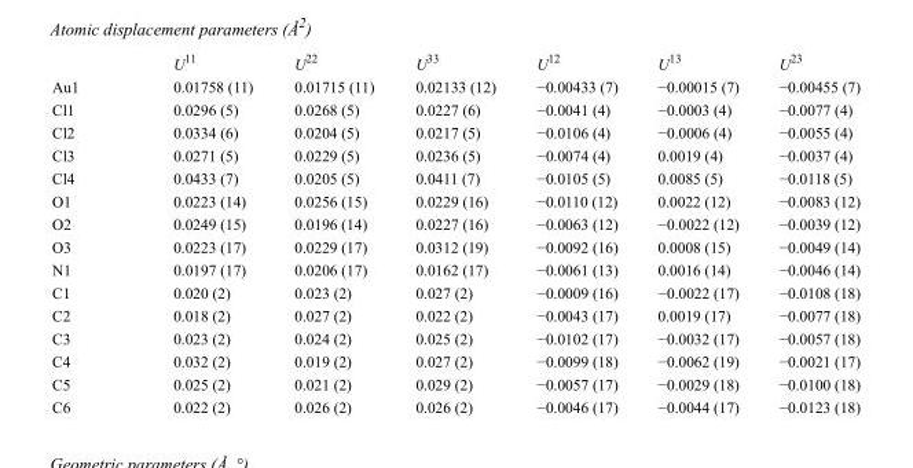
<table><thead><tr><td></td><td>U<sup>11</sup></td><td>U<sup>22</sup></td><td>U<sup>33</sup></td><td>U<sup>12</sup></td><td>U<sup>13</sup></td><td>U<sup>23</sup></td></tr></thead><tbody><tr><td>Au1</td><td>0.01758 (11)</td><td>0.01715 (11)</td><td>0.02133 (12)</td><td>−0.00433 (7)</td><td>−0.00015 (7)</td><td>−0.00455 (7)</td></tr><tr><td>Cl1</td><td>0.0296 (5)</td><td>0.0268 (5)</td><td>0.0227 (6)</td><td>−0.0041 (4)</td><td>−0.0003 (4)</td><td>−0.0077 (4)</td></tr><tr><td>Cl2</td><td>0.0334 (6)</td><td>0.0204 (5)</td><td>0.0217 (5)</td><td>−0.0106 (4)</td><td>−0.0006 (4)</td><td>−0.0055 (4)</td></tr><tr><td>Cl3</td><td>0.0271 (5)</td><td>0.0229 (5)</td><td>0.0236 (5)</td><td>−0.0074 (4)</td><td>0.0019 (4)</td><td>−0.0037 (4)</td></tr><tr><td>Cl4</td><td>0.0433 (7)</td><td>0.0205 (5)</td><td>0.0411 (7)</td><td>−0.0105 (5)</td><td>0.0085 (5)</td><td>−0.0118 (5)</td></tr><tr><td>O1</td><td>0.0223 (14)</td><td>0.0256 (15)</td><td>0.0229 (16)</td><td>−0.0110 (12)</td><td>0.0022 (12)</td><td>−0.0083 (12)</td></tr><tr><td>O2</td><td>0.0249 (15)</td><td>0.0196 (14)</td><td>0.0227 (16)</td><td>−0.0063 (12)</td><td>−0.0022 (12)</td><td>−0.0039 (12)</td></tr><tr><td>O3</td><td>0.0223 (17)</td><td>0.0229 (17)</td><td>0.0312 (19)</td><td>−0.0092 (16)</td><td>0.0008 (15)</td><td>−0.0049 (14)</td></tr><tr><td>N1</td><td>0.0197 (17)</td><td>0.0206 (17)</td><td>0.0162 (17)</td><td>−0.0061 (13)</td><td>0.0016 (14)</td><td>−0.0046 (14)</td></tr><tr><td>C1</td><td>0.020 (2)</td><td>0.023 (2)</td><td>0.027 (2)</td><td>−0.0009 (16)</td><td>−0.0022 (17)</td><td>−0.0108 (18)</td></tr><tr><td>C2</td><td>0.018 (2)</td><td>0.027 (2)</td><td>0.022 (2)</td><td>−0.0043 (17)</td><td>0.0019 (17)</td><td>−0.0077 (18)</td></tr><tr><td>C3</td><td>0.023 (2)</td><td>0.024 (2)</td><td>0.025 (2)</td><td>−0.0102 (17)</td><td>−0.0032 (17)</td><td>−0.0057 (18)</td></tr><tr><td>C4</td><td>0.032 (2)</td><td>0.019 (2)</td><td>0.027 (2)</td><td>−0.0099 (18)</td><td>−0.0062 (19)</td><td>−0.0021 (17)</td></tr><tr><td>C5</td><td>0.025 (2)</td><td>0.021 (2)</td><td>0.029 (2)</td><td>−0.0057 (17)</td><td>−0.0029 (18)</td><td>−0.0100 (18)</td></tr><tr><td>C6</td><td>0.022 (2)</td><td>0.026 (2)</td><td>0.026 (2)</td><td>−0.0046 (17)</td><td>−0.0044 (17)</td><td>−0.0123 (18)</td></tr></tbody></table>